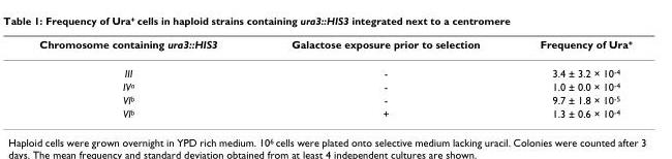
<table><thead><tr><td>Chromosome containing ura3::HIS3</td><td>Galactose exposure prior to selection</td><td>Frequency of Ura<sup>+</sup></td></tr></thead><tbody><tr><td>III</td><td>-</td><td>3.4 ± 3.2 × 10<sup>-4</sup></td></tr><tr><td>IV<sup>a</sup></td><td>-</td><td>1.0 ± 0.0 × 10<sup>-4</sup></td></tr><tr><td>VI<sup>b</sup></td><td>-</td><td>9.7 ± 1.8 × 10<sup>-5</sup></td></tr><tr><td>VI<sup>b</sup></td><td>+</td><td>1.3 ± 0.6 × 10<sup>-4</sup></td></tr></tbody></table>